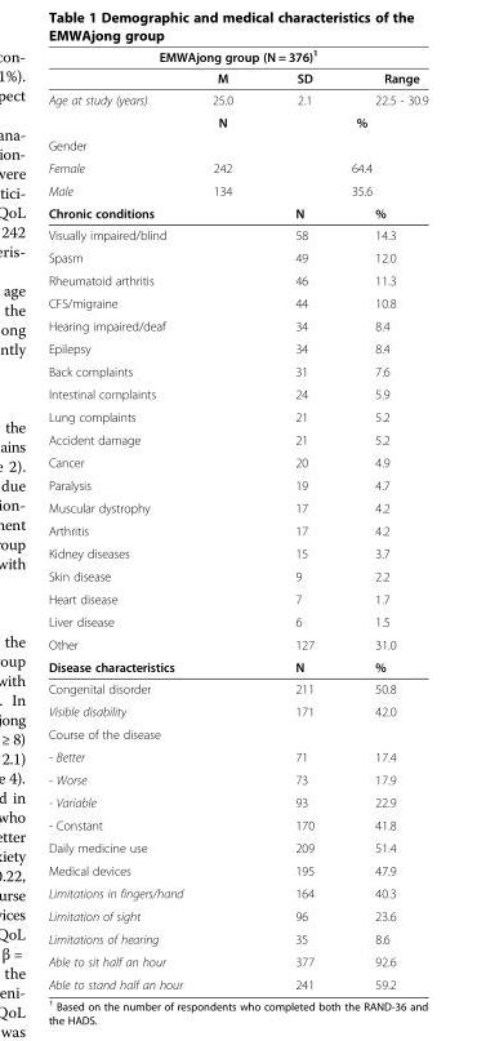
<table><thead><tr><td colspan="4">EMWAjong group (N = 376)<sup>1</sup></td></tr><tr><td></td><td>M</td><td>SD</td><td>Range</td></tr></thead><tbody><tr><td rowspan="2">Age at study (years)</td><td>25.0</td><td>2.1</td><td>22.5 - 30.9</td></tr><tr><td>N</td><td colspan="2">%</td></tr><tr><td colspan="4">Gender</td></tr><tr><td>Female</td><td>242</td><td colspan="2">64.4</td></tr><tr><td>Male</td><td>134</td><td colspan="2">35.6</td></tr><tr><td colspan="2">Chronic conditions</td><td>N</td><td>%</td></tr><tr><td colspan="2">Visually impaired/blind</td><td>58</td><td>14.3</td></tr><tr><td colspan="2">Spasm</td><td>49</td><td>12.0</td></tr><tr><td colspan="2">Rheumatoid arthritis</td><td>46</td><td>11.3</td></tr><tr><td colspan="2">CFS/migraine</td><td>44</td><td>10.8</td></tr><tr><td colspan="2">Hearing impaired/deaf</td><td>34</td><td>8.4</td></tr><tr><td colspan="2">Epilepsy</td><td>34</td><td>8.4</td></tr><tr><td colspan="2">Back complaints</td><td>31</td><td>7.6</td></tr><tr><td colspan="2">Intestinal complaints</td><td>24</td><td>5.9</td></tr><tr><td colspan="2">Lung complaints</td><td>21</td><td>5.2</td></tr><tr><td colspan="2">Accident damage</td><td>21</td><td>5.2</td></tr><tr><td colspan="2">Cancer</td><td>20</td><td>4.9</td></tr><tr><td colspan="2">Paralysis</td><td>19</td><td>4.7</td></tr><tr><td colspan="2">Muscular dystrophy</td><td>17</td><td>4.2</td></tr><tr><td colspan="2">Arthritis</td><td>17</td><td>4.2</td></tr><tr><td colspan="2">Kidney diseases</td><td>15</td><td>3.7</td></tr><tr><td colspan="2">Skin disease</td><td>9</td><td>2.2</td></tr><tr><td colspan="2">Heart disease</td><td>7</td><td>1.7</td></tr><tr><td colspan="2">Liver disease</td><td>6</td><td>1.5</td></tr><tr><td colspan="2">Other</td><td>127</td><td>31.0</td></tr><tr><td colspan="2">Disease characteristics</td><td>N</td><td>%</td></tr><tr><td colspan="2">Congenital disorder</td><td>211</td><td>50.8</td></tr><tr><td colspan="2">Visible disability</td><td>171</td><td>42.0</td></tr><tr><td colspan="4">Course of the disease</td></tr><tr><td colspan="2">- Better</td><td>71</td><td>17.4</td></tr><tr><td colspan="2">- Worse</td><td>73</td><td>17.9</td></tr><tr><td colspan="2">- Variable</td><td>93</td><td>22.9</td></tr><tr><td colspan="2">- Constant</td><td>170</td><td>41.8</td></tr><tr><td colspan="2">Daily medicine use</td><td>209</td><td>51.4</td></tr><tr><td colspan="2">Medical devices</td><td>195</td><td>47.9</td></tr><tr><td colspan="2">Limitations in fingers/hand</td><td>164</td><td>40.3</td></tr><tr><td colspan="2">Limitation of sight</td><td>96</td><td>23.6</td></tr><tr><td colspan="2">Limitations of hearing</td><td>35</td><td>8.6</td></tr><tr><td colspan="2">Able to sit half an hour</td><td>377</td><td>92.6</td></tr><tr><td colspan="2">Able to stand half an hour</td><td>241</td><td>59.2</td></tr></tbody></table>